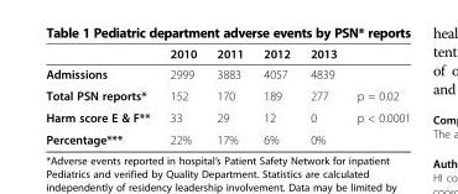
<table><thead><tr><td></td><td>2010</td><td>2011</td><td>2012</td><td>2013</td><td></td></tr></thead><tbody><tr><td>Admissions</td><td>2999</td><td>3883</td><td>4057</td><td>4839</td><td></td></tr><tr><td>Total PSN reports*</td><td>152</td><td>170</td><td>189</td><td>277</td><td>p = 0.02</td></tr><tr><td>Harm score E &amp; F**</td><td>33</td><td>29</td><td>12</td><td>0</td><td>p &lt; 0.0001</td></tr><tr><td>Percentage***</td><td>22%</td><td>17%</td><td>6%</td><td>0%</td><td></td></tr></tbody></table>